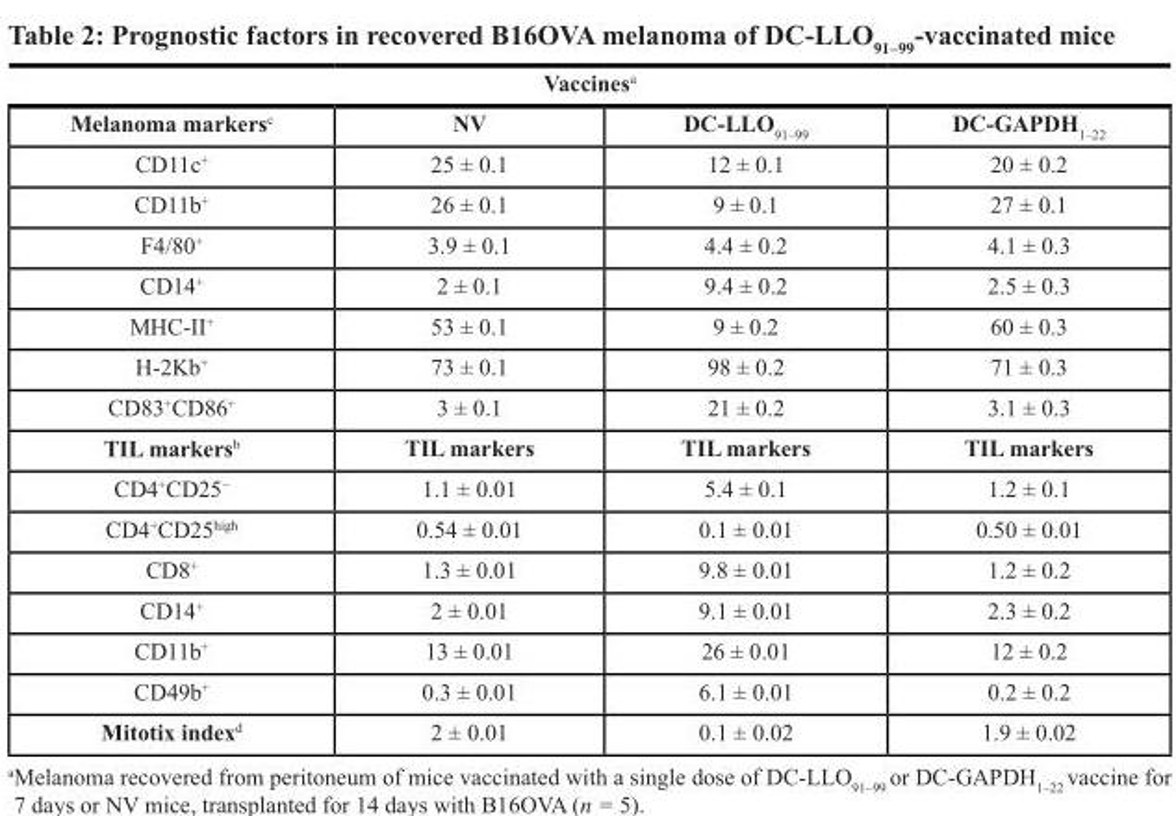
<table><thead><tr><td colspan="4">Vaccines<sup>a</sup></td></tr><tr><td>Melanoma markers<sup>c</sup></td><td>NV</td><td>DC-LLO<sub>91–99</sub></td><td>DC-GAPDH<sub>1–22</sub></td></tr></thead><tbody><tr><td>CD11c<sup>+</sup></td><td>25 ± 0.1</td><td>12 ± 0.1</td><td>20 ± 0.2</td></tr><tr><td>CD11b<sup>+</sup></td><td>26 ± 0.1</td><td>9 ± 0.1</td><td>27 ± 0.1</td></tr><tr><td>F4/80<sup>+</sup></td><td>3.9 ± 0.1</td><td>4.4 ± 0.2</td><td>4.1 ± 0.3</td></tr><tr><td>CD14<sup>+</sup></td><td>2 ± 0.1</td><td>9.4 ± 0.2</td><td>2.5 ± 0.3</td></tr><tr><td>MHC-II<sup>+</sup></td><td>53 ± 0.1</td><td>9 ± 0.2</td><td>60 ± 0.3</td></tr><tr><td>H-2Kb<sup>+</sup></td><td>73 ± 0.1</td><td>98 ± 0.2</td><td>71 ± 0.3</td></tr><tr><td>CD83<sup>+</sup>CD86<sup>+</sup></td><td>3 ± 0.1</td><td>21 ± 0.2</td><td>3.1 ± 0.3</td></tr><tr><td>TIL markers<sup>b</sup></td><td>TIL markers</td><td>TIL markers</td><td>TIL markers</td></tr><tr><td>CD4<sup>+</sup>CD25<sup>−</sup></td><td>1.1 ± 0.01</td><td>5.4 ± 0.1</td><td>1.2 ± 0.1</td></tr><tr><td>CD4<sup>+</sup>CD25<sup>high</sup></td><td>0.54 ± 0.01</td><td>0.1 ± 0.01</td><td>0.50 ± 0.01</td></tr><tr><td>CD8<sup>+</sup></td><td>1.3 ± 0.01</td><td>9.8 ± 0.01</td><td>1.2 ± 0.2</td></tr><tr><td>CD14<sup>+</sup></td><td>2 ± 0.01</td><td>9.1 ± 0.01</td><td>2.3 ± 0.2</td></tr><tr><td>CD11b<sup>+</sup></td><td>13 ± 0.01</td><td>26 ± 0.01</td><td>12 ± 0.2</td></tr><tr><td>CD49b<sup>+</sup></td><td>0.3 ± 0.01</td><td>6.1 ± 0.01</td><td>0.2 ± 0.2</td></tr><tr><td>Mitotix index<sup>d</sup></td><td>2 ± 0.01</td><td>0.1 ± 0.02</td><td>1.9 ± 0.02</td></tr></tbody></table>